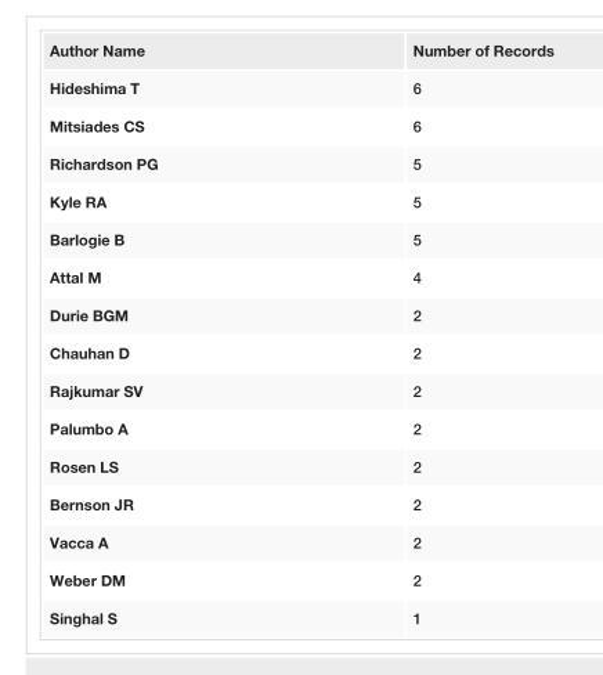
<table><tbody><tr><td>Author Name</td><td>Number of Records</td></tr><tr><td>Hideshima T</td><td>6</td></tr><tr><td>Mitsiades CS</td><td>6</td></tr><tr><td>Richardson PG</td><td>5</td></tr><tr><td>Kyle RA</td><td>5</td></tr><tr><td>Barlogie B</td><td>5</td></tr><tr><td>Attal M</td><td>4</td></tr><tr><td>Durie BGM</td><td>2</td></tr><tr><td>Chauhan D</td><td>2</td></tr><tr><td>Rajkumar SV</td><td>2</td></tr><tr><td>Palumbo A</td><td>2</td></tr><tr><td>Rosen LS</td><td>2</td></tr><tr><td>Bernson JR</td><td>2</td></tr><tr><td>Vacca A</td><td>2</td></tr><tr><td>Weber DM</td><td>2</td></tr><tr><td>Singhal S</td><td>1</td></tr></tbody></table>